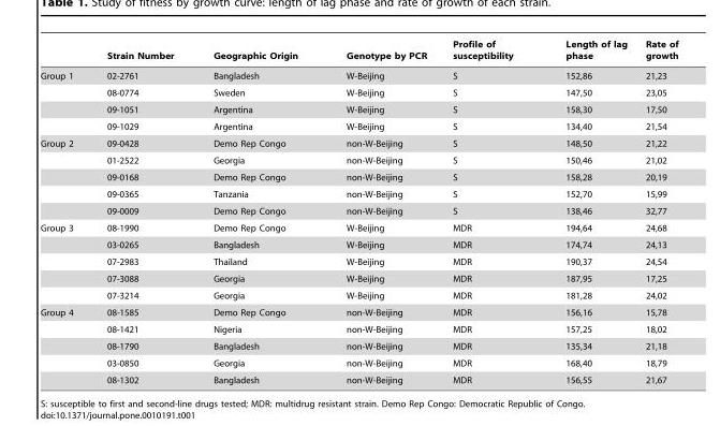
<table><thead><tr><td></td><td>Strain Number</td><td>Geographic Origin</td><td>Genotype by PCR</td><td>Profile of susceptibility</td><td>Length of lag phase</td><td>Rate of growth</td></tr></thead><tbody><tr><td rowspan="4">Group 1</td><td>02-2761</td><td>Bangladesh</td><td>W-Beijing</td><td>S</td><td>152,86</td><td>21,23</td></tr><tr><td>08-0774</td><td>Sweden</td><td>W-Beijing</td><td>S</td><td>147,50</td><td>23,05</td></tr><tr><td>09-1051</td><td>Argentina</td><td>W-Beijing</td><td>S</td><td>158,30</td><td>17,50</td></tr><tr><td>09-1029</td><td>Argentina</td><td>W-Beijing</td><td>S</td><td>134,40</td><td>21,54</td></tr><tr><td rowspan="5">Group 2</td><td>09-0428</td><td>Demo Rep Congo</td><td>non-W-Beijing</td><td>S</td><td>148,50</td><td>21,22</td></tr><tr><td>01-2522</td><td>Georgia</td><td>non-W-Beijing</td><td>S</td><td>150,46</td><td>21,02</td></tr><tr><td>09-0168</td><td>Demo Rep Congo</td><td>non-W-Beijing</td><td>S</td><td>158,28</td><td>20,19</td></tr><tr><td>09-0365</td><td>Tanzania</td><td>non-W-Beijing</td><td>S</td><td>152,70</td><td>15,99</td></tr><tr><td>09-0009</td><td>Demo Rep Congo</td><td>non-W-Beijing</td><td>S</td><td>138,46</td><td>32,77</td></tr><tr><td rowspan="5">Group 3</td><td>08-1990</td><td>Demo Rep Congo</td><td>W-Beijing</td><td>MDR</td><td>194,64</td><td>24,68</td></tr><tr><td>03-0265</td><td>Bangladesh</td><td>W-Beijing</td><td>MDR</td><td>174,74</td><td>24,13</td></tr><tr><td>07-2983</td><td>Thailand</td><td>W-Beijing</td><td>MDR</td><td>190,37</td><td>24,54</td></tr><tr><td>07-3088</td><td>Georgia</td><td>W-Beijing</td><td>MDR</td><td>187,95</td><td>17,25</td></tr><tr><td>07-3214</td><td>Georgia</td><td>W-Beijing</td><td>MDR</td><td>181,28</td><td>24,02</td></tr><tr><td rowspan="5">Group 4</td><td>08-1585</td><td>Demo Rep Congo</td><td>non-W-Beijing</td><td>MDR</td><td>156,16</td><td>15,78</td></tr><tr><td>08-1421</td><td>Nigeria</td><td>non-W-Beijing</td><td>MDR</td><td>157,25</td><td>18,02</td></tr><tr><td>08-1790</td><td>Bangladesh</td><td>non-W-Beijing</td><td>MDR</td><td>135,34</td><td>21,18</td></tr><tr><td>03-0850</td><td>Georgia</td><td>non-W-Beijing</td><td>MDR</td><td>168,40</td><td>18,79</td></tr><tr><td>08-1302</td><td>Bangladesh</td><td>non-W-Beijing</td><td>MDR</td><td>156,55</td><td>21,67</td></tr></tbody></table>